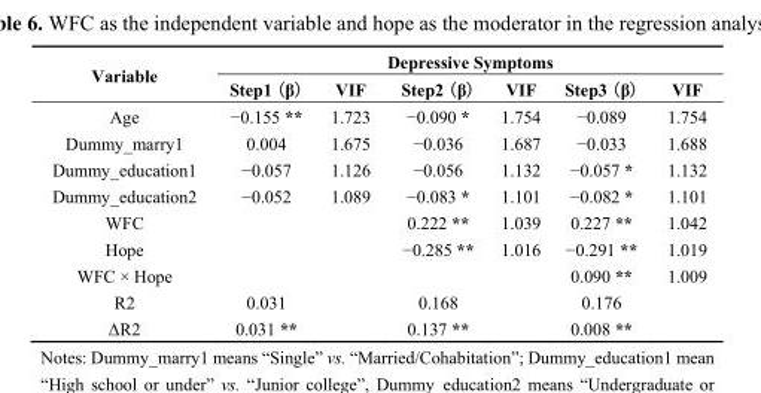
<table><thead><tr><td rowspan="2">Variable</td><td colspan="6">Depressive Symptoms</td></tr><tr><td>Step1 (β)</td><td>VIF</td><td>Step2 (β)</td><td>VIF</td><td>Step3 (β)</td><td>VIF</td></tr></thead><tbody><tr><td>Age</td><td>−0.155 **</td><td>1.723</td><td>−0.090 *</td><td>1.754</td><td>−0.089</td><td>1.754</td></tr><tr><td>Dummy_marry1</td><td>0.004</td><td>1.675</td><td>−0.036</td><td>1.687</td><td>−0.033</td><td>1.688</td></tr><tr><td>Dummy_education1</td><td>−0.057</td><td>1.126</td><td>−0.056</td><td>1.132</td><td>−0.057 *</td><td>1.132</td></tr><tr><td>Dummy_education2</td><td>−0.052</td><td>1.089</td><td>−0.083 *</td><td>1.101</td><td>−0.082 *</td><td>1.101</td></tr><tr><td>WFC</td><td></td><td></td><td>0.222 **</td><td>1.039</td><td>0.227 **</td><td>1.042</td></tr><tr><td>Hope</td><td></td><td></td><td>−0.285 **</td><td>1.016</td><td>−0.291 **</td><td>1.019</td></tr><tr><td>WFC × Hope</td><td></td><td></td><td></td><td></td><td>0.090 **</td><td>1.009</td></tr><tr><td>R2</td><td>0.031</td><td></td><td>0.168</td><td></td><td>0.176</td><td></td></tr><tr><td>ΔR2</td><td>0.031 **</td><td></td><td>0.137 **</td><td></td><td>0.008 **</td><td></td></tr></tbody></table>